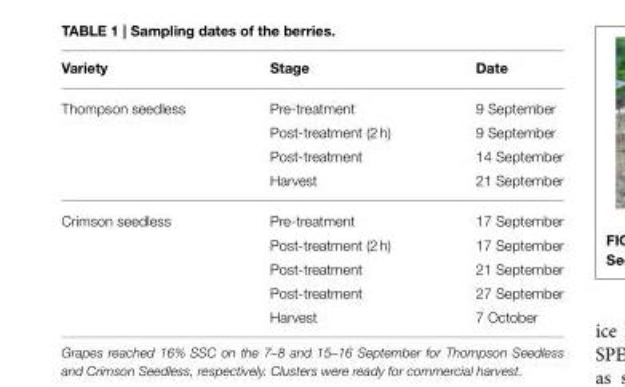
<table><thead><tr><td>Variety</td><td>Stage</td><td>Date</td></tr></thead><tbody><tr><td rowspan="4">Thompson seedless</td><td>Pre-treatment</td><td>9 September</td></tr><tr><td>Post-treatment (2 h)</td><td>9 September</td></tr><tr><td>Post-treatment</td><td>14 September</td></tr><tr><td>Harvest</td><td>21 September</td></tr><tr><td rowspan="5">Crimson seedless</td><td>Pre-treatment</td><td>17 September</td></tr><tr><td>Post-treatment (2 h)</td><td>17 September</td></tr><tr><td>Post-treatment</td><td>21 September</td></tr><tr><td>Post-treatment</td><td>27 September</td></tr><tr><td>Harvest</td><td>7 October</td></tr></tbody></table>